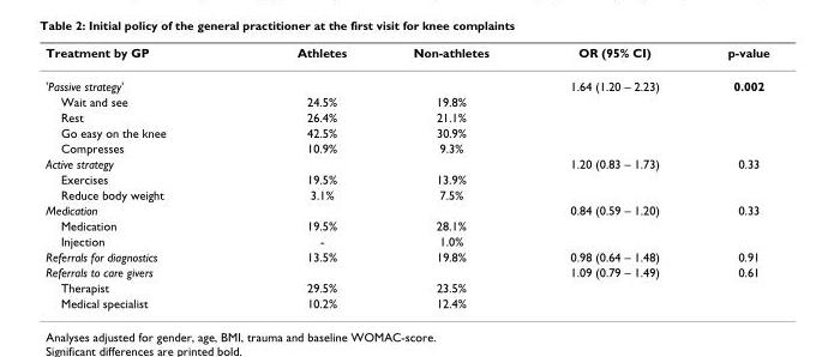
<table><thead><tr><td>Treatment by GP</td><td>Athletes</td><td>Non-athletes</td><td>OR (95% CI)</td><td>p-value</td></tr></thead><tbody><tr><td>&#x27;Passive strategy&#x27;</td><td></td><td></td><td>1.64 (1.20 – 2.23)</td><td>0.002</td></tr><tr><td>Wait and see</td><td>24.5%</td><td>19.8%</td><td></td><td></td></tr><tr><td>Rest</td><td>26.4%</td><td>21.1%</td><td></td><td></td></tr><tr><td>Go easy on the knee</td><td>42.5%</td><td>30.9%</td><td></td><td></td></tr><tr><td>Compresses</td><td>10.9%</td><td>9.3%</td><td></td><td></td></tr><tr><td>Active strategy</td><td></td><td></td><td>1.20 (0.83 – 1.73)</td><td>0.33</td></tr><tr><td>Exercises</td><td>19.5%</td><td>13.9%</td><td></td><td></td></tr><tr><td>Reduce body weight</td><td>3.1%</td><td>7.5%</td><td></td><td></td></tr><tr><td>Medication</td><td></td><td></td><td>0.84 (0.59 – 1.20)</td><td>0.33</td></tr><tr><td>Medication</td><td>19.5%</td><td>28.1%</td><td></td><td></td></tr><tr><td>Injection</td><td>-</td><td>1.0%</td><td></td><td></td></tr><tr><td>Referrals for diagnostics</td><td>13.5%</td><td>19.8%</td><td>0.98 (0.64 – 1.48)</td><td>0.91</td></tr><tr><td>Referrals to care givers</td><td></td><td></td><td>1.09 (0.79 – 1.49)</td><td>0.61</td></tr><tr><td>Therapist</td><td>29.5%</td><td>23.5%</td><td></td><td></td></tr><tr><td>Medical specialist</td><td>10.2%</td><td>12.4%</td><td></td><td></td></tr></tbody></table>